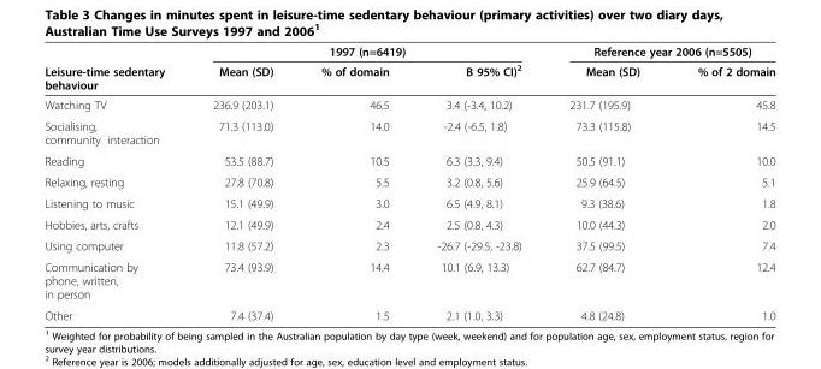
<table><thead><tr><td rowspan="2">Leisure-time sedentary behaviour</td><td colspan="3">1997 (n=6419)</td><td colspan="2">Reference year 2006 (n=5505)</td></tr><tr><td>Mean (SD)</td><td>% of domain</td><td>B 95% CI)<sup>2</sup></td><td>Mean (SD)</td><td>% of 2 domain</td></tr></thead><tbody><tr><td>Watching TV</td><td>236.9 (203.1)</td><td>46.5</td><td>3.4 (-3.4, 10.2)</td><td>231.7 (195.9)</td><td>45.8</td></tr><tr><td>Socialising, community interaction</td><td>71.3 (113.0)</td><td>14.0</td><td>-2.4 (-6.5, 1.8)</td><td>73.3 (115.8)</td><td>14.5</td></tr><tr><td>Reading</td><td>53.5 (88.7)</td><td>10.5</td><td>6.3 (3.3, 9.4)</td><td>50.5 (91.1)</td><td>10.0</td></tr><tr><td>Relaxing, resting</td><td>27.8 (70.8)</td><td>5.5</td><td>3.2 (0.8, 5.6)</td><td>25.9 (64.5)</td><td>5.1</td></tr><tr><td>Listening to music</td><td>15.1 (49.9)</td><td>3.0</td><td>6.5 (4.9, 8.1)</td><td>9.3 (38.6)</td><td>1.8</td></tr><tr><td>Hobbies, arts, crafts</td><td>12.1 (49.9)</td><td>2.4</td><td>2.5 (0.8, 4.3)</td><td>10.0 (44.3)</td><td>2.0</td></tr><tr><td>Using computer</td><td>11.8 (57.2)</td><td>2.3</td><td>-26.7 (-29.5, -23.8)</td><td>37.5 (99.5)</td><td>7.4</td></tr><tr><td>Communication by phone, written, in person</td><td>73.4 (93.9)</td><td>14.4</td><td>10.1 (6.9, 13.3)</td><td>62.7 (84.7)</td><td>12.4</td></tr><tr><td>Other</td><td>7.4 (37.4)</td><td>1.5</td><td>2.1 (1.0, 3.3)</td><td>4.8 (24.8)</td><td>1.0</td></tr></tbody></table>